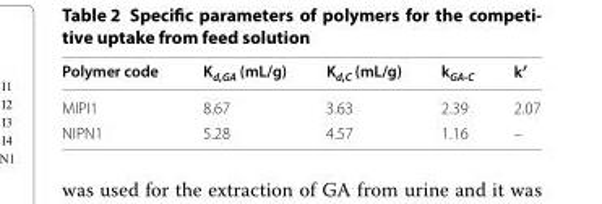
<table><thead><tr><td>Polymer code</td><td>K<sub>d,GA</sub> (mL/g)</td><td>K<sub>d,C</sub> (mL/g)</td><td>k<sub>GA-C</sub></td><td>k′</td></tr></thead><tbody><tr><td>MIPI1</td><td>8.67</td><td>3.63</td><td>2.39</td><td>2.07</td></tr><tr><td>NIPN1</td><td>5.28</td><td>4.57</td><td>1.16</td><td>–</td></tr></tbody></table>